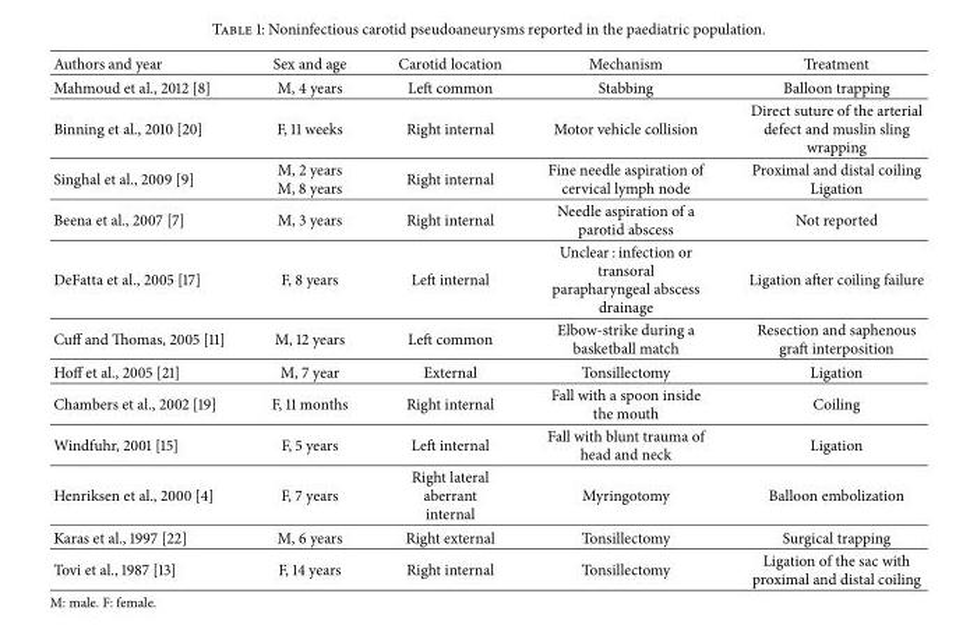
<table><thead><tr><td>Authors and year</td><td>Sex and age</td><td>Carotid location</td><td>Mechanism</td><td>Treatment</td></tr></thead><tbody><tr><td>Mahmoud et al., 2012 [8]</td><td>M, 4 years</td><td>Left common</td><td>Stabbing</td><td>Balloon trapping</td></tr><tr><td>Binning et al., 2010 [20]</td><td>F, 11 weeks</td><td>Right internal</td><td>Motor vehicle collision</td><td>Direct suture of the arterial defect and muslin sling wrapping</td></tr><tr><td>Singhal et al., 2009 [9]</td><td>M, 2 years M, 8 years</td><td>Right internal</td><td>Fine needle aspiration of cervical lymph node</td><td>Proximal and distal coiling Ligation</td></tr><tr><td>Beena et al., 2007 [7]</td><td>M, 3 years</td><td>Right internal</td><td>Needle aspiration of a parotid abscess</td><td>Not reported</td></tr><tr><td>DeFatta et al., 2005 [17]</td><td>F, 8 years</td><td>Left internal</td><td>Unclear : infection or transoral parapharyngeal abscess drainage</td><td>Ligation after coiling failure</td></tr><tr><td>Cuff and Thomas, 2005 [11]</td><td>M, 12 years</td><td>Left common</td><td>Elbow-strike during a basketball match</td><td>Resection and saphenous graft interposition</td></tr><tr><td>Hoff et al., 2005 [21]</td><td>M, 7 year</td><td>External</td><td>Tonsillectomy</td><td>Ligation</td></tr><tr><td>Chambers et al., 2002 [19]</td><td>F, 11 months</td><td>Right internal</td><td>Fall with a spoon inside the mouth</td><td>Coiling</td></tr><tr><td>Windfuhr, 2001 [15]</td><td>F, 5 years</td><td>Left internal</td><td>Fall with blunt trauma of head and neck</td><td>Ligation</td></tr><tr><td>Henriksen et al., 2000 [4]</td><td>F, 7 years</td><td>Right lateral aberrant internal</td><td>Myringotomy</td><td>Balloon embolization</td></tr><tr><td>Karas et al., 1997 [22]</td><td>M, 6 years</td><td>Right external</td><td>Tonsillectomy</td><td>Surgical trapping</td></tr><tr><td>Tovi et al., 1987 [13]</td><td>F, 14 years</td><td>Right internal</td><td>Tonsillectomy</td><td>Ligation of the sac with proximal and distal coiling</td></tr></tbody></table>